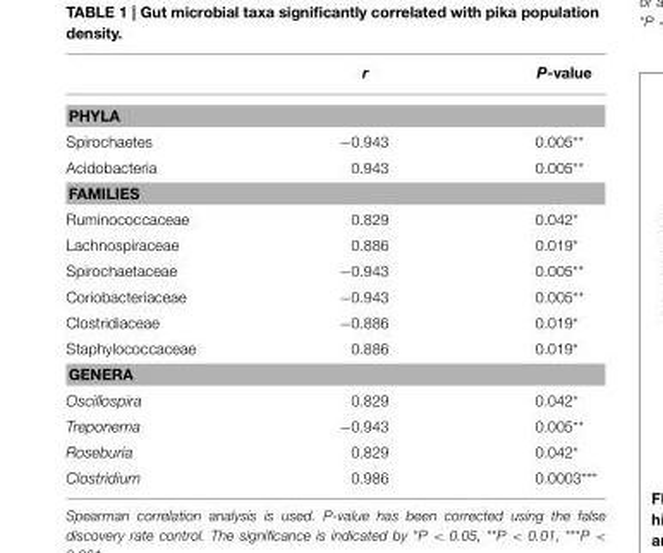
<table><thead><tr><td></td><td>r</td><td>P-value</td></tr></thead><tbody><tr><td colspan="3">PHYLA</td></tr><tr><td>Spirochaetes</td><td>−0.943</td><td>0.005**</td></tr><tr><td>Acidobacteria</td><td>0.943</td><td>0.005**</td></tr><tr><td colspan="3">FAMILIES</td></tr><tr><td>Ruminococcaceae</td><td>0.829</td><td>0.042*</td></tr><tr><td>Lachnospiraceae</td><td>0.886</td><td>0.019*</td></tr><tr><td>Spirochaetaceae</td><td>−0.943</td><td>0.005**</td></tr><tr><td>Coriobacteriaceae</td><td>−0.943</td><td>0.005**</td></tr><tr><td>Clostridiaceae</td><td>−0.886</td><td>0.019*</td></tr><tr><td>Staphylococcaceae</td><td>0.886</td><td>0.019*</td></tr><tr><td colspan="3">GENERA</td></tr><tr><td>Oscillospira</td><td>0.829</td><td>0.042*</td></tr><tr><td>Treponema</td><td>−0.943</td><td>0.005**</td></tr><tr><td>Roseburia</td><td>0.829</td><td>0.042*</td></tr><tr><td>Clostridium</td><td>0.986</td><td>0.0003***</td></tr></tbody></table>